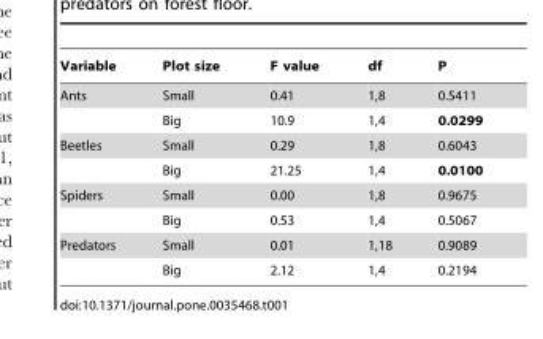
<table><thead><tr><td>Variable</td><td>Plot size</td><td>F value</td><td>df</td><td>P</td></tr></thead><tbody><tr><td rowspan="2">Ants</td><td>Small</td><td>0.41</td><td>1,8</td><td>0.5411</td></tr><tr><td>Big</td><td>10.9</td><td>1,4</td><td>0.0299</td></tr><tr><td rowspan="2">Beetles</td><td>Small</td><td>0.29</td><td>1,8</td><td>0.6043</td></tr><tr><td>Big</td><td>21.25</td><td>1,4</td><td>0.0100</td></tr><tr><td rowspan="2">Spiders</td><td>Small</td><td>0.00</td><td>1,8</td><td>0.9675</td></tr><tr><td>Big</td><td>0.53</td><td>1,4</td><td>0.5067</td></tr><tr><td rowspan="2">Predators</td><td>Small</td><td>0.01</td><td>1,18</td><td>0.9089</td></tr><tr><td>Big</td><td>2.12</td><td>1,4</td><td>0.2194</td></tr></tbody></table>